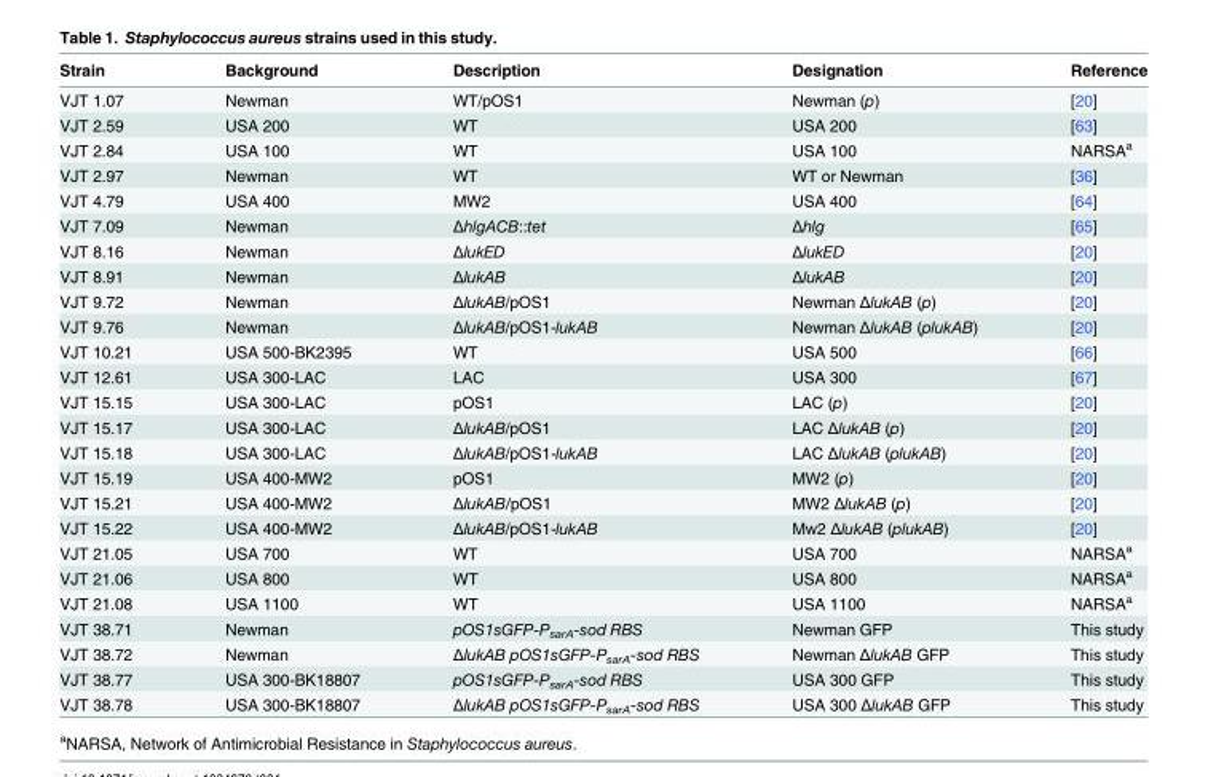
<table><thead><tr><td>Strain</td><td>Background</td><td>Description</td><td>Designation</td><td>Reference</td></tr></thead><tbody><tr><td>VJT 1.07</td><td>Newman</td><td>WT/pOS1</td><td>Newman (p)</td><td>[20]</td></tr><tr><td>VJT 2.59</td><td>USA 200</td><td>WT</td><td>USA 200</td><td>[63]</td></tr><tr><td>VJT 2.84</td><td>USA 100</td><td>WT</td><td>USA 100</td><td>NARSA<sup>a</sup></td></tr><tr><td>VJT 2.97</td><td>Newman</td><td>WT</td><td>WT or Newman</td><td>[36]</td></tr><tr><td>VJT 4.79</td><td>USA 400</td><td>MW2</td><td>USA 400</td><td>[64]</td></tr><tr><td>VJT 7.09</td><td>Newman</td><td>ΔhlgACB::tet</td><td>Δhlg</td><td>[65]</td></tr><tr><td>VJT 8.16</td><td>Newman</td><td>ΔlukED</td><td>ΔlukED</td><td>[20]</td></tr><tr><td>VJT 8.91</td><td>Newman</td><td>ΔlukAB</td><td>ΔlukAB</td><td>[20]</td></tr><tr><td>VJT 9.72</td><td>Newman</td><td>ΔlukAB/pOS1</td><td>Newman ΔlukAB (p)</td><td>[20]</td></tr><tr><td>VJT 9.76</td><td>Newman</td><td>ΔlukAB/pOS1-lukAB</td><td>Newman ΔlukAB (plukAB)</td><td>[20]</td></tr><tr><td>VJT 10.21</td><td>USA 500-BK2395</td><td>WT</td><td>USA 500</td><td>[66]</td></tr><tr><td>VJT 12.61</td><td>USA 300-LAC</td><td>LAC</td><td>USA 300</td><td>[67]</td></tr><tr><td>VJT 15.15</td><td>USA 300-LAC</td><td>pOS1</td><td>LAC (p)</td><td>[20]</td></tr><tr><td>VJT 15.17</td><td>USA 300-LAC</td><td>ΔlukAB/pOS1</td><td>LAC ΔlukAB (p)</td><td>[20]</td></tr><tr><td>VJT 15.18</td><td>USA 300-LAC</td><td>ΔlukAB/pOS1-lukAB</td><td>LAC ΔlukAB (plukAB)</td><td>[20]</td></tr><tr><td>VJT 15.19</td><td>USA 400-MW2</td><td>pOS1</td><td>MW2 (p)</td><td>[20]</td></tr><tr><td>VJT 15.21</td><td>USA 400-MW2</td><td>ΔlukAB/pOS1</td><td>MW2 ΔlukAB (p)</td><td>[20]</td></tr><tr><td>VJT 15.22</td><td>USA 400-MW2</td><td>ΔlukAB/pOS1-lukAB</td><td>Mw2 ΔlukAB (plukAB)</td><td>[20]</td></tr><tr><td>VJT 21.05</td><td>USA 700</td><td>WT</td><td>USA 700</td><td>NARSA<sup>a</sup></td></tr><tr><td>VJT 21.06</td><td>USA 800</td><td>WT</td><td>USA 800</td><td>NARSA<sup>a</sup></td></tr><tr><td>VJT 21.08</td><td>USA 1100</td><td>WT</td><td>USA 1100</td><td>NARSA<sup>a</sup></td></tr><tr><td>VJT 38.71</td><td>Newman</td><td>pOS1sGFP-P<sub>sarA</sub>-sod RBS</td><td>Newman GFP</td><td>This study</td></tr><tr><td>VJT 38.72</td><td>Newman</td><td>ΔlukAB pOS1sGFP-P<sub>sarA</sub>-sod RBS</td><td>Newman ΔlukAB GFP</td><td>This study</td></tr><tr><td>VJT 38.77</td><td>USA 300-BK18807</td><td>pOS1sGFP-P<sub>sarA</sub>-sod RBS</td><td>USA 300 GFP</td><td>This study</td></tr><tr><td>VJT 38.78</td><td>USA 300-BK18807</td><td>ΔlukAB pOS1sGFP-P<sub>sarA</sub>-sod RBS</td><td>USA 300 ΔlukAB GFP</td><td>This study</td></tr></tbody></table>